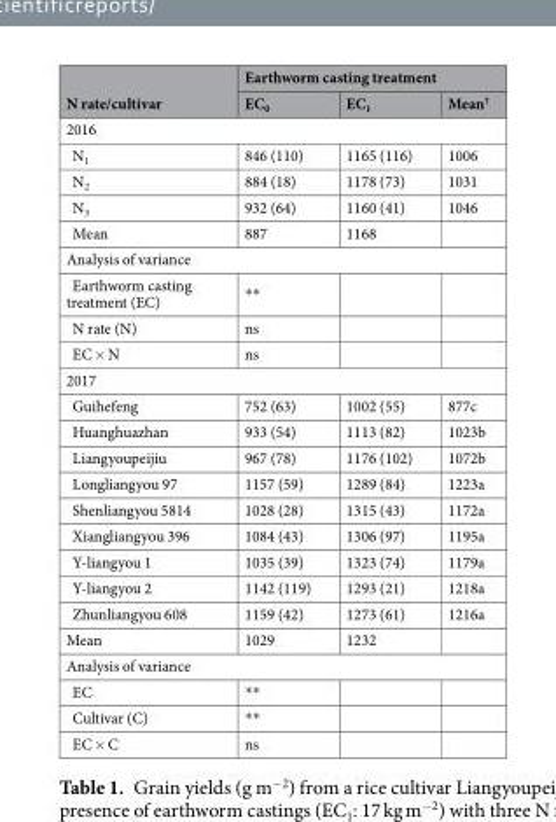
<table><thead><tr><td rowspan="2">N rate/cultivar</td><td colspan="3">Earthworm casting treatment</td></tr><tr><td>EC<sub>0</sub></td><td>EC<sub>1</sub></td><td>Mean<sup>†</sup></td></tr></thead><tbody><tr><td colspan="4">2016</td></tr><tr><td>N<sub>1</sub></td><td>846 (110)</td><td>1165 (116)</td><td>1006</td></tr><tr><td>N<sub>2</sub></td><td>884 (18)</td><td>1178 (73)</td><td>1031</td></tr><tr><td>N<sub>3</sub></td><td>932 (64)</td><td>1160 (41)</td><td>1046</td></tr><tr><td>Mean</td><td>887</td><td>1168</td><td></td></tr><tr><td colspan="4">Analysis of variance</td></tr><tr><td>Earthworm casting treatment (EC)</td><td>**</td><td></td><td></td></tr><tr><td>N rate (N)</td><td>ns</td><td></td><td></td></tr><tr><td>EC × N</td><td>ns</td><td></td><td></td></tr><tr><td colspan="4">2017</td></tr><tr><td>Guihefeng</td><td>752 (63)</td><td>1002 (55)</td><td>877c</td></tr><tr><td>Huanghuazhan</td><td>933 (54)</td><td>1113 (82)</td><td>1023b</td></tr><tr><td>Liangyoupeijiu</td><td>967 (78)</td><td>1176 (102)</td><td>1072b</td></tr><tr><td>Longliangyou 97</td><td>1157 (59)</td><td>1289 (84)</td><td>1223a</td></tr><tr><td>Shenliangyou 5814</td><td>1028 (28)</td><td>1315 (43)</td><td>1172a</td></tr><tr><td>Xiangliangyou 396</td><td>1084 (43)</td><td>1306 (97)</td><td>1195a</td></tr><tr><td>Y-liangyou 1</td><td>1035 (39)</td><td>1323 (74)</td><td>1179a</td></tr><tr><td>Y-liangyou 2</td><td>1142 (119)</td><td>1293 (21)</td><td>1218a</td></tr><tr><td>Zhunliangyou 608</td><td>1159 (42)</td><td>1273 (61)</td><td>1216a</td></tr><tr><td>Mean</td><td>1029</td><td>1232</td><td></td></tr><tr><td colspan="4">Analysis of variance</td></tr><tr><td>EC</td><td>**</td><td></td><td></td></tr><tr><td>Cultivar (C)</td><td>**</td><td></td><td></td></tr><tr><td>EC × C</td><td>ns</td><td></td><td></td></tr></tbody></table>